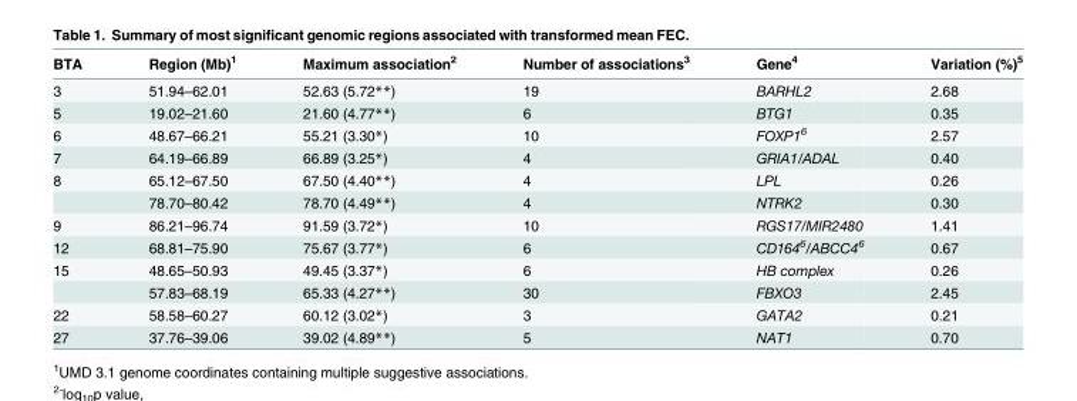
<table><thead><tr><td>BTA</td><td>Region (Mb)<sup>1</sup></td><td>Maximum association<sup>2</sup></td><td>Number of associations<sup>3</sup></td><td>Gene<sup>4</sup></td><td>Variation (%)<sup>5</sup></td></tr></thead><tbody><tr><td>3</td><td>51.94–62.01</td><td>52.63 (5.72**)</td><td>19</td><td>BARHL2</td><td>2.68</td></tr><tr><td>5</td><td>19.02–21.60</td><td>21.60 (4.77**)</td><td>6</td><td>BTG1</td><td>0.35</td></tr><tr><td>6</td><td>48.67–66.21</td><td>55.21 (3.30*)</td><td>10</td><td>FOXP1<sup>6</sup></td><td>2.57</td></tr><tr><td>7</td><td>64.19–66.89</td><td>66.89 (3.25*)</td><td>4</td><td>GRIA1/ADAL</td><td>0.40</td></tr><tr><td rowspan="2">8</td><td>65.12–67.50</td><td>67.50 (4.40**)</td><td>4</td><td>LPL</td><td>0.26</td></tr><tr><td>78.70–80.42</td><td>78.70 (4.49**)</td><td>4</td><td>NTRK2</td><td>0.30</td></tr><tr><td>9</td><td>86.21–96.74</td><td>91.59 (3.72*)</td><td>10</td><td>RGS17/MIR2480</td><td>1.41</td></tr><tr><td>12</td><td>68.81–75.90</td><td>75.67 (3.77*)</td><td>6</td><td>CD164<sup>6</sup>/ABCC4<sup>6</sup></td><td>0.67</td></tr><tr><td rowspan="2">15</td><td>48.65–50.93</td><td>49.45 (3.37*)</td><td>6</td><td>HB complex</td><td>0.26</td></tr><tr><td>57.83–68.19</td><td>65.33 (4.27**)</td><td>30</td><td>FBXO3</td><td>2.45</td></tr><tr><td>22</td><td>58.58–60.27</td><td>60.12 (3.02*)</td><td>3</td><td>GATA2</td><td>0.21</td></tr><tr><td>27</td><td>37.76–39.06</td><td>39.02 (4.89**)</td><td>5</td><td>NAT1</td><td>0.70</td></tr></tbody></table>